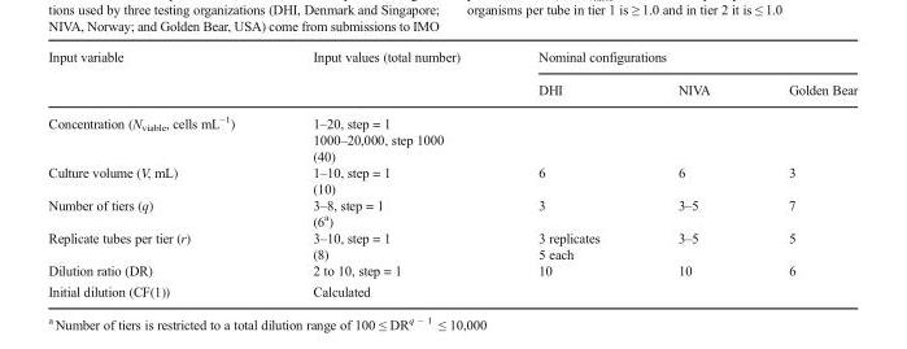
<table><thead><tr><td rowspan="2">Input variable</td><td rowspan="2">Input values (total number)</td><td colspan="3">Nominal configurations</td></tr><tr><td>DHI</td><td>NIVA</td><td>Golden Bear</td></tr></thead><tbody><tr><td>Concentration (N<sub>viable</sub>, cells mL<sup>−1</sup>)</td><td>1–20, step = 1 1000–20,000, step 1000 (40)</td><td></td><td></td><td></td></tr><tr><td>Culture volume (V, mL)</td><td>1–10, step = 1 (10)</td><td>6</td><td>6</td><td>3</td></tr><tr><td>Number of tiers (q)</td><td>3–8, step = 1 (6<sup>a</sup>)</td><td>3</td><td>3–5</td><td>7</td></tr><tr><td>Replicate tubes per tier (r)</td><td>3–10, step = 1 (8)</td><td>3 replicates 5 each</td><td>3–5</td><td>5</td></tr><tr><td>Dilution ratio (DR)</td><td>2 to 10, step = 1</td><td>10</td><td>10</td><td>6</td></tr><tr><td>Initial dilution (CF(1))</td><td>Calculated</td><td></td><td></td><td></td></tr></tbody></table>